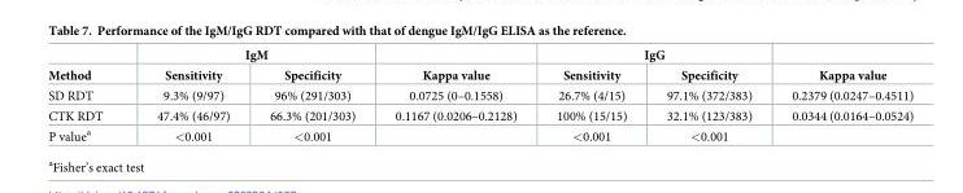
<table><thead><tr><td rowspan="2">Method</td><td colspan="2">IgM</td><td rowspan="2">Kappa value</td><td colspan="2">IgG</td><td rowspan="2">Kappa value</td></tr><tr><td>Sensitivity</td><td>Specificity</td><td>Sensitivity</td><td>Specificity</td></tr></thead><tbody><tr><td>SD RDT</td><td>9.3% (9/97)</td><td>96% (291/303)</td><td>0.0725 (0–0.1558)</td><td>26.7% (4/15)</td><td>97.1% (372/383)</td><td>0.2379 (0.0247–0.4511)</td></tr><tr><td>CTK RDT</td><td>47.4% (46/97)</td><td>66.3% (201/303)</td><td>0.1167 (0.0206–0.2128)</td><td>100% (15/15)</td><td>32.1% (123/383)</td><td>0.0344 (0.0164–0.0524)</td></tr><tr><td>P value<sup>a</sup></td><td>&lt;0.001</td><td>&lt;0.001</td><td></td><td>&lt;0.001</td><td>&lt;0.001</td><td></td></tr></tbody></table>